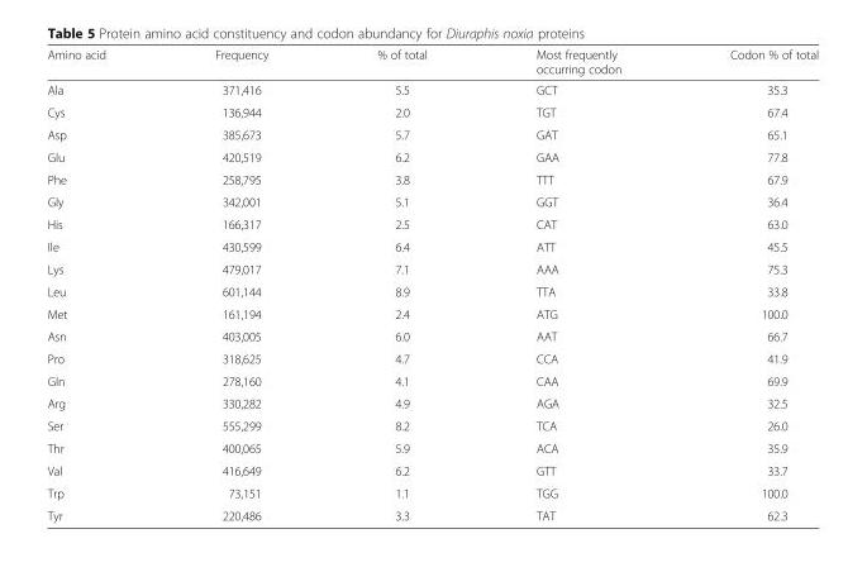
<table><thead><tr><td>Amino acid</td><td>Frequency</td><td>% of total</td><td>Most frequently occurring codon</td><td>Codon % of total</td></tr></thead><tbody><tr><td>Ala</td><td>371,416</td><td>5.5</td><td>GCT</td><td>35.3</td></tr><tr><td>Cys</td><td>136,944</td><td>2.0</td><td>TGT</td><td>67.4</td></tr><tr><td>Asp</td><td>385,673</td><td>5.7</td><td>GAT</td><td>65.1</td></tr><tr><td>Glu</td><td>420,519</td><td>6.2</td><td>GAA</td><td>77.8</td></tr><tr><td>Phe</td><td>258,795</td><td>3.8</td><td>TTT</td><td>67.9</td></tr><tr><td>Gly</td><td>342,001</td><td>5.1</td><td>GGT</td><td>36.4</td></tr><tr><td>His</td><td>166,317</td><td>2.5</td><td>CAT</td><td>63.0</td></tr><tr><td>Ile</td><td>430,599</td><td>6.4</td><td>ATT</td><td>45.5</td></tr><tr><td>Lys</td><td>479,017</td><td>7.1</td><td>AAA</td><td>75.3</td></tr><tr><td>Leu</td><td>601,144</td><td>8.9</td><td>TTA</td><td>33.8</td></tr><tr><td>Met</td><td>161,194</td><td>2.4</td><td>ATG</td><td>100.0</td></tr><tr><td>Asn</td><td>403,005</td><td>6.0</td><td>AAT</td><td>66.7</td></tr><tr><td>Pro</td><td>318,625</td><td>4.7</td><td>CCA</td><td>41.9</td></tr><tr><td>Gln</td><td>278,160</td><td>4.1</td><td>CAA</td><td>69.9</td></tr><tr><td>Arg</td><td>330,282</td><td>4.9</td><td>AGA</td><td>32.5</td></tr><tr><td>Ser</td><td>555,299</td><td>8.2</td><td>TCA</td><td>26.0</td></tr><tr><td>Thr</td><td>400,065</td><td>5.9</td><td>ACA</td><td>35.9</td></tr><tr><td>Val</td><td>416,649</td><td>6.2</td><td>GTT</td><td>33.7</td></tr><tr><td>Trp</td><td>73,151</td><td>1.1</td><td>TGG</td><td>100.0</td></tr><tr><td>Tyr</td><td>220,486</td><td>3.3</td><td>TAT</td><td>62.3</td></tr></tbody></table>